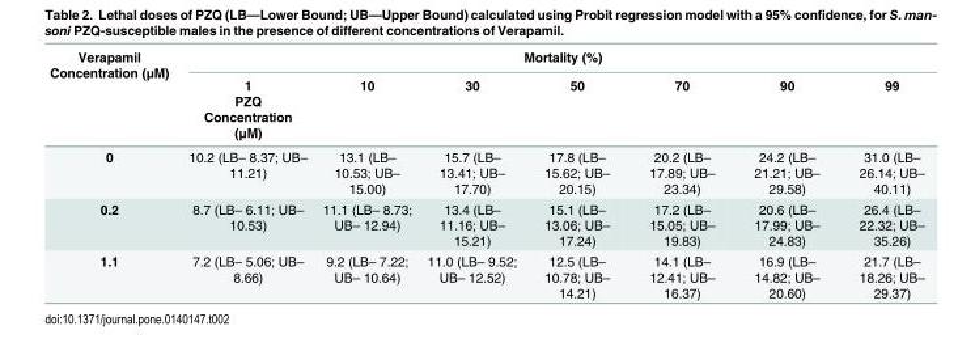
<table><thead><tr><td rowspan="3">Verapamil Concentration (μM)</td><td colspan="7">Mortality (%)</td></tr><tr><td rowspan="2">1 PZQ Concentration (μM)</td><td rowspan="2">10</td><td rowspan="2">30</td><td rowspan="2">50</td><td rowspan="2">70</td><td rowspan="2">90</td><td rowspan="2">99</td></tr><tr></tr></thead><tbody><tr><td>0</td><td>10.2 (LB– 8.37; UB– 11.21)</td><td>13.1 (LB– 10.53; UB– 15.00)</td><td>15.7 (LB– 13.41; UB– 17.70)</td><td>17.8 (LB– 15.62; UB– 20.15)</td><td>20.2 (LB– 17.89; UB– 23.34)</td><td>24.2 (LB– 21.21; UB– 29.58)</td><td>31.0 (LB– 26.14; UB– 40.11)</td></tr><tr><td>0.2</td><td>8.7 (LB– 6.11; UB– 10.53)</td><td>11.1 (LB– 8.73; UB– 12.94)</td><td>13.4 (LB– 11.16; UB– 15.21)</td><td>15.1 (LB– 13.06; UB– 17.24)</td><td>17.2 (LB– 15.05; UB– 19.83)</td><td>20.6 (LB– 17.99; UB– 24.83)</td><td>26.4 (LB– 22.32; UB– 35.26)</td></tr><tr><td>1.1</td><td>7.2 (LB– 5.06; UB– 8.66)</td><td>9.2 (LB– 7.22; UB– 10.64)</td><td>11.0 (LB– 9.52; UB– 12.52)</td><td>12.5 (LB– 10.78; UB– 14.21)</td><td>14.1 (LB– 12.41; UB– 16.37)</td><td>16.9 (LB– 14.82; UB– 20.60)</td><td>21.7 (LB– 18.26; UB– 29.37)</td></tr></tbody></table>